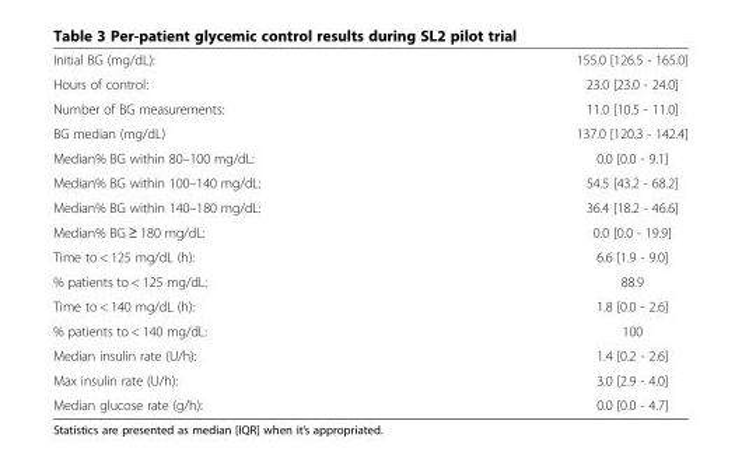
<table><tbody><tr><td>Initial BG (mg/dL):</td><td>155.0 [126.5 - 165.0]</td></tr><tr><td>Hours of control:</td><td>23.0 [23.0 - 24.0]</td></tr><tr><td>Number of BG measurements:</td><td>11.0 [10.5 - 11.0]</td></tr><tr><td>BG median (mg/dL)</td><td>137.0 [120.3 - 142.4]</td></tr><tr><td>Median% BG within 80–100 mg/dL:</td><td>0.0 [0.0 - 9.1]</td></tr><tr><td>Median% BG within 100–140 mg/dL:</td><td>54.5 [43.2 - 68.2]</td></tr><tr><td>Median% BG within 140–180 mg/dL:</td><td>36.4 [18.2 - 46.6]</td></tr><tr><td>Median% BG ≥ 180 mg/dL:</td><td>0.0 [0.0 - 19.9]</td></tr><tr><td>Time to &lt; 125 mg/dL (h):</td><td>6.6 [1.9 - 9.0]</td></tr><tr><td>% patients to &lt; 125 mg/dL:</td><td>88.9</td></tr><tr><td>Time to &lt; 140 mg/dL (h):</td><td>1.8 [0.0 - 2.6]</td></tr><tr><td>% patients to &lt; 140 mg/dL:</td><td>100</td></tr><tr><td>Median insulin rate (U/h):</td><td>1.4 [0.2 - 2.6]</td></tr><tr><td>Max insulin rate (U/h):</td><td>3.0 [2.9 - 4.0]</td></tr><tr><td>Median glucose rate (g/h):</td><td>0.0 [0.0 - 4.7]</td></tr></tbody></table>